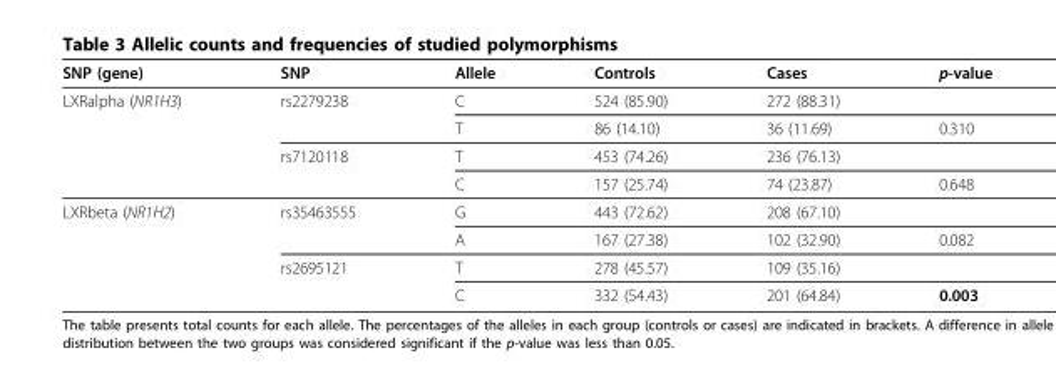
<table><thead><tr><td>SNP (gene)</td><td>SNP</td><td>Allele</td><td>Controls</td><td>Cases</td><td>p-value</td></tr></thead><tbody><tr><td rowspan="4">LXRalpha (NR1H3)</td><td>rs2279238</td><td>C</td><td>524 (85.90)</td><td>272 (88.31)</td><td></td></tr><tr><td></td><td>T</td><td>86 (14.10)</td><td>36 (11.69)</td><td>0.310</td></tr><tr><td>rs7120118</td><td>T</td><td>453 (74.26)</td><td>236 (76.13)</td><td></td></tr><tr><td></td><td>C</td><td>157 (25.74)</td><td>74 (23.87)</td><td>0.648</td></tr><tr><td rowspan="4">LXRbeta (NR1H2)</td><td>rs35463555</td><td>G</td><td>443 (72.62)</td><td>208 (67.10)</td><td></td></tr><tr><td></td><td>A</td><td>167 (27.38)</td><td>102 (32.90)</td><td>0.082</td></tr><tr><td>rs2695121</td><td>T</td><td>278 (45.57)</td><td>109 (35.16)</td><td></td></tr><tr><td></td><td>C</td><td>332 (54.43)</td><td>201 (64.84)</td><td>0.003</td></tr></tbody></table>